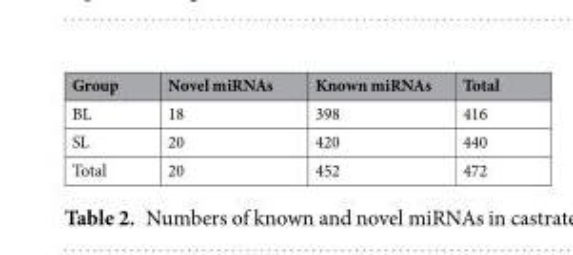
<table><thead><tr><td>Group</td><td>Novel miRNAs</td><td>Known miRNAs</td><td>Total</td></tr></thead><tbody><tr><td>BL</td><td>18</td><td>398</td><td>416</td></tr><tr><td>SL</td><td>20</td><td>420</td><td>440</td></tr><tr><td>Total</td><td>20</td><td>452</td><td>472</td></tr></tbody></table>